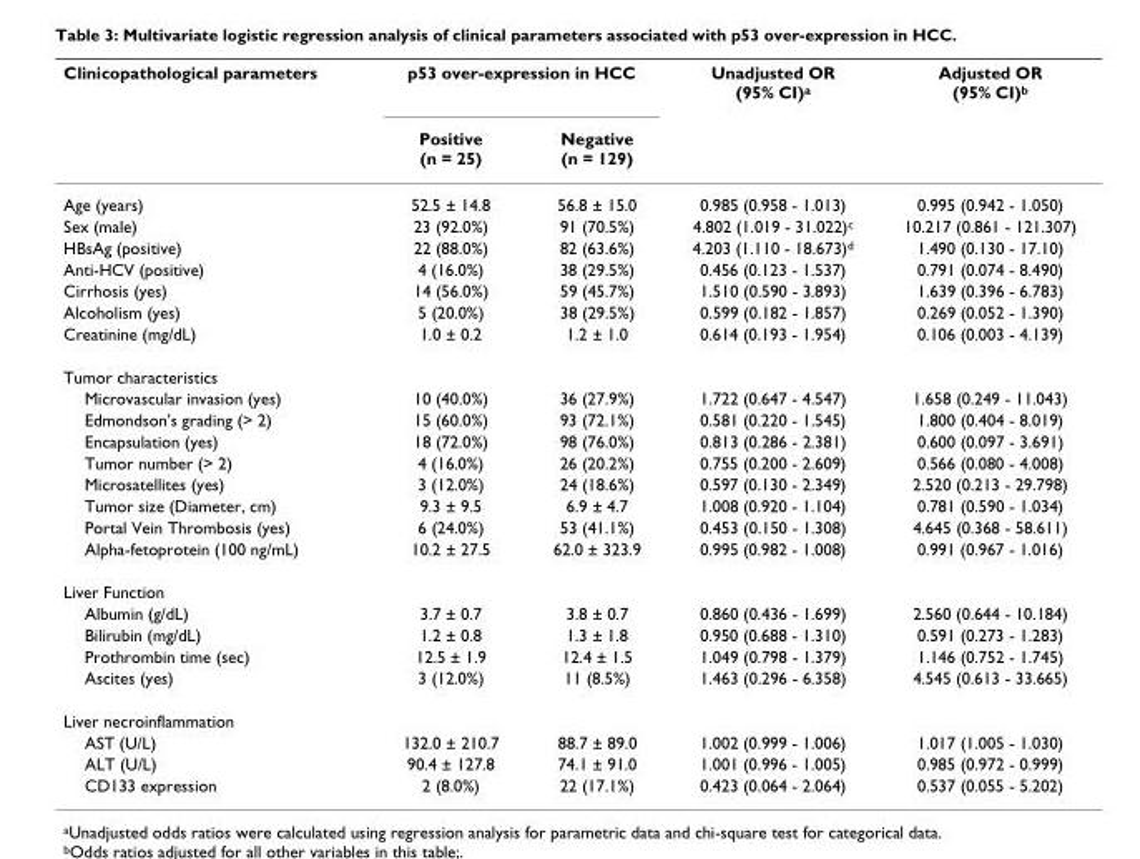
<table><thead><tr><td rowspan="2">Clinicopathological parameters</td><td colspan="2">p53 over-expression in HCC</td><td rowspan="2">Unadjusted OR (95% CI)<sup>a</sup></td><td rowspan="2">Adjusted OR (95% CI)<sup>b</sup></td></tr><tr><td>Positive (n = 25)</td><td>Negative (n = 129)</td></tr></thead><tbody><tr><td>Age (years)</td><td>52.5 ± 14.8</td><td>56.8 ± 15.0</td><td>0.985 (0.958 - 1.013)</td><td>0.995 (0.942 - 1.050)</td></tr><tr><td>Sex (male)</td><td>23 (92.0%)</td><td>91 (70.5%)</td><td>4.802 (1.019 - 31.022)<sup>c</sup></td><td>10.217 (0.861 - 121.307)</td></tr><tr><td>HBsAg (positive)</td><td>22 (88.0%)</td><td>82 (63.6%)</td><td>4.203 (1.110 - 18.673)<sup>d</sup></td><td>1.490 (0.130 - 17.10)</td></tr><tr><td>Anti-HCV (positive)</td><td>4 (16.0%)</td><td>38 (29.5%)</td><td>0.456 (0.123 - 1.537)</td><td>0.791 (0.074 - 8.490)</td></tr><tr><td>Cirrhosis (yes)</td><td>14 (56.0%)</td><td>59 (45.7%)</td><td>1.510 (0.590 - 3.893)</td><td>1.639 (0.396 - 6.783)</td></tr><tr><td>Alcoholism (yes)</td><td>5 (20.0%)</td><td>38 (29.5%)</td><td>0.599 (0.182 - 1.857)</td><td>0.269 (0.052 - 1.390)</td></tr><tr><td>Creatinine (mg/dL)</td><td>1.0 ± 0.2</td><td>1.2 ± 1.0</td><td>0.614 (0.193 - 1.954)</td><td>0.106 (0.003 - 4.139)</td></tr><tr><td colspan="5">Tumor characteristics</td></tr><tr><td>Microvascular invasion (yes)</td><td>10 (40.0%)</td><td>36 (27.9%)</td><td>1.722 (0.647 - 4.547)</td><td>1.658 (0.249 - 11.043)</td></tr><tr><td>Edmondson&#x27;s grading (&gt; 2)</td><td>15 (60.0%)</td><td>93 (72.1%)</td><td>0.581 (0.220 - 1.545)</td><td>1.800 (0.404 - 8.019)</td></tr><tr><td>Encapsulation (yes)</td><td>18 (72.0%)</td><td>98 (76.0%)</td><td>0.813 (0.286 - 2.381)</td><td>0.600 (0.097 - 3.691)</td></tr><tr><td>Tumor number (&gt; 2)</td><td>4 (16.0%)</td><td>26 (20.2%)</td><td>0.755 (0.200 - 2.609)</td><td>0.566 (0.080 - 4.008)</td></tr><tr><td>Microsatellites (yes)</td><td>3 (12.0%)</td><td>24 (18.6%)</td><td>0.597 (0.130 - 2.349)</td><td>2.520 (0.213 - 29.798)</td></tr><tr><td>Tumor size (Diameter, cm)</td><td>9.3 ± 9.5</td><td>6.9 ± 4.7</td><td>1.008 (0.920 - 1.104)</td><td>0.781 (0.590 - 1.034)</td></tr><tr><td>Portal Vein Thrombosis (yes)</td><td>6 (24.0%)</td><td>53 (41.1%)</td><td>0.453 (0.150 - 1.308)</td><td>4.645 (0.368 - 58.611)</td></tr><tr><td>Alpha-fetoprotein (100 ng/mL)</td><td>10.2 ± 27.5</td><td>62.0 ± 323.9</td><td>0.995 (0.982 - 1.008)</td><td>0.991 (0.967 - 1.016)</td></tr><tr><td colspan="5">Liver Function</td></tr><tr><td>Albumin (g/dL)</td><td>3.7 ± 0.7</td><td>3.8 ± 0.7</td><td>0.860 (0.436 - 1.699)</td><td>2.560 (0.644 - 10.184)</td></tr><tr><td>Bilirubin (mg/dL)</td><td>1.2 ± 0.8</td><td>1.3 ± 1.8</td><td>0.950 (0.688 - 1.310)</td><td>0.591 (0.273 - 1.283)</td></tr><tr><td>Prothrombin time (sec)</td><td>12.5 ± 1.9</td><td>12.4 ± 1.5</td><td>1.049 (0.798 - 1.379)</td><td>1.146 (0.752 - 1.745)</td></tr><tr><td>Ascites (yes)</td><td>3 (12.0%)</td><td>11 (8.5%)</td><td>1.463 (0.296 - 6.358)</td><td>4.545 (0.613 - 33.665)</td></tr><tr><td colspan="5">Liver necroinflammation</td></tr><tr><td>AST (U/L)</td><td>132.0 ± 210.7</td><td>88.7 ± 89.0</td><td>1.002 (0.999 - 1.006)</td><td>1.017 (1.005 - 1.030)</td></tr><tr><td>ALT (U/L)</td><td>90.4 ± 127.8</td><td>74.1 ± 91.0</td><td>1.001 (0.996 - 1.005)</td><td>0.985 (0.972 - 0.999)</td></tr><tr><td>CD133 expression</td><td>2 (8.0%)</td><td>22 (17.1%)</td><td>0.423 (0.064 - 2.064)</td><td>0.537 (0.055 - 5.202)</td></tr></tbody></table>